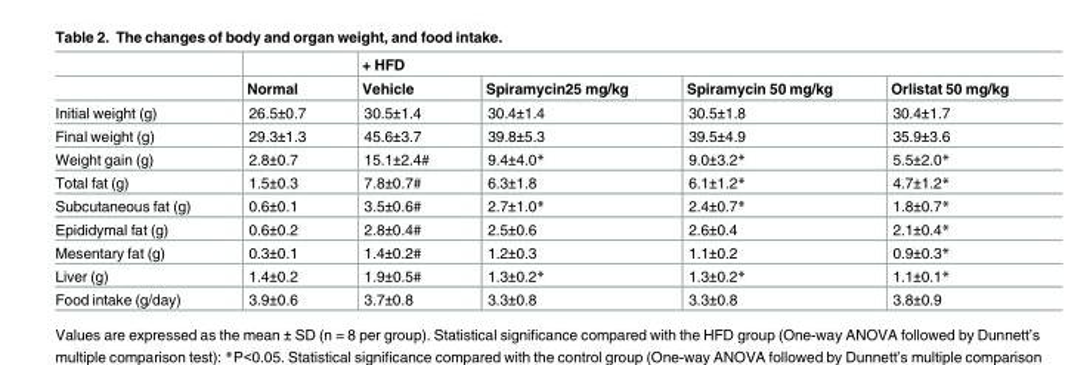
<table><thead><tr><td rowspan="2"></td><td rowspan="2">Normal</td><td colspan="4">+ HFD</td></tr><tr><td>Vehicle</td><td>Spiramycin25 mg/kg</td><td>Spiramycin 50 mg/kg</td><td>Orlistat 50 mg/kg</td></tr></thead><tbody><tr><td>Initial weight (g)</td><td>26.5±0.7</td><td>30.5±1.4</td><td>30.4±1.4</td><td>30.5±1.8</td><td>30.4±1.7</td></tr><tr><td>Final weight (g)</td><td>29.3±1.3</td><td>45.6±3.7</td><td>39.8±5.3</td><td>39.5±4.9</td><td>35.9±3.6</td></tr><tr><td>Weight gain (g)</td><td>2.8±0.7</td><td>15.1±2.4#</td><td>9.4±4.0*</td><td>9.0±3.2*</td><td>5.5±2.0*</td></tr><tr><td>Total fat (g)</td><td>1.5±0.3</td><td>7.8±0.7#</td><td>6.3±1.8</td><td>6.1±1.2*</td><td>4.7±1.2*</td></tr><tr><td>Subcutaneous fat (g)</td><td>0.6±0.1</td><td>3.5±0.6#</td><td>2.7±1.0*</td><td>2.4±0.7*</td><td>1.8±0.7*</td></tr><tr><td>Epididymal fat (g)</td><td>0.6±0.2</td><td>2.8±0.4#</td><td>2.5±0.6</td><td>2.6±0.4</td><td>2.1±0.4*</td></tr><tr><td>Mesentary fat (g)</td><td>0.3±0.1</td><td>1.4±0.2#</td><td>1.2±0.3</td><td>1.1±0.2</td><td>0.9±0.3*</td></tr><tr><td>Liver (g)</td><td>1.4±0.2</td><td>1.9±0.5#</td><td>1.3±0.2*</td><td>1.3±0.2*</td><td>1.1±0.1*</td></tr><tr><td>Food intake (g/day)</td><td>3.9±0.6</td><td>3.7±0.8</td><td>3.3±0.8</td><td>3.3±0.8</td><td>3.8±0.9</td></tr></tbody></table>